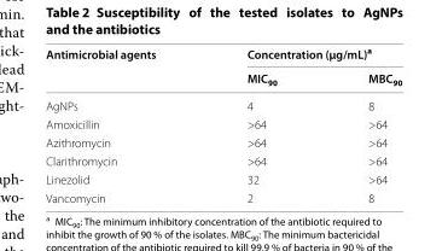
<table><thead><tr><td rowspan="2">Antimicrobial agents</td><td colspan="2">Concentration (µg/mL)<sup>a</sup></td></tr><tr><td>MIC<sub>90</sub></td><td>MBC<sub>90</sub></td></tr></thead><tbody><tr><td>AgNPs</td><td>4</td><td>8</td></tr><tr><td>Amoxicillin</td><td>&gt;64</td><td>&gt;64</td></tr><tr><td>Azithromycin</td><td>&gt;64</td><td>&gt;64</td></tr><tr><td>Clarithromycin</td><td>&gt;64</td><td>&gt;64</td></tr><tr><td>Linezolid</td><td>32</td><td>&gt;64</td></tr><tr><td>Vancomycin</td><td>2</td><td>8</td></tr></tbody></table>